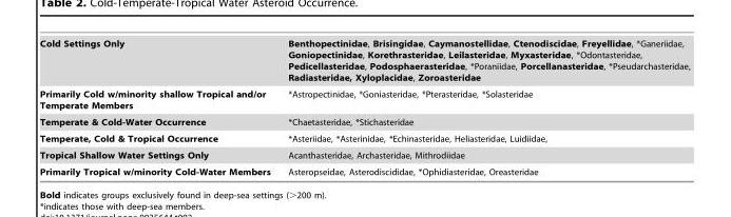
<table><tbody><tr><td>Cold Settings Only</td><td>Benthopectinidae, Brisingidae, Caymanostellidae, Ctenodiscidae, Freyellidae, *Ganeriidae, Goniopectinidae, Korethrasteridae, Leilasteridae, Myxasteridae, *Odontasteridae, Pedicellasteridae, Podosphaerasteridae, *Poraniidae, Porcellanasteridae, *Pseudarchasteridae, Radiasteridae, Xyloplacidae, Zoroasteridae</td></tr><tr><td>Primarily Cold w/minority shallow Tropical and/or Temperate Members</td><td>*Astropectinidae, *Goniasteridae, *Pterasteridae, *Solasteridae</td></tr><tr><td>Temperate &amp; Cold-Water Occurrence</td><td>*Chaetasteridae, *Stichasteridae</td></tr><tr><td>Temperate, Cold &amp; Tropical Occurrence</td><td>*Asteriidae, *Asterinidae, *Echinasteridae, Heliasteridae, Luidiidae,</td></tr><tr><td>Tropical Shallow Water Settings Only</td><td>Acanthasteridae, Archasteridae, Mithrodiidae</td></tr><tr><td>Primarily Tropical w/minority Cold-Water Members</td><td>Asteropseidae, Asterodiscididae, *Ophidiasteridae, Oreasteridae</td></tr></tbody></table>